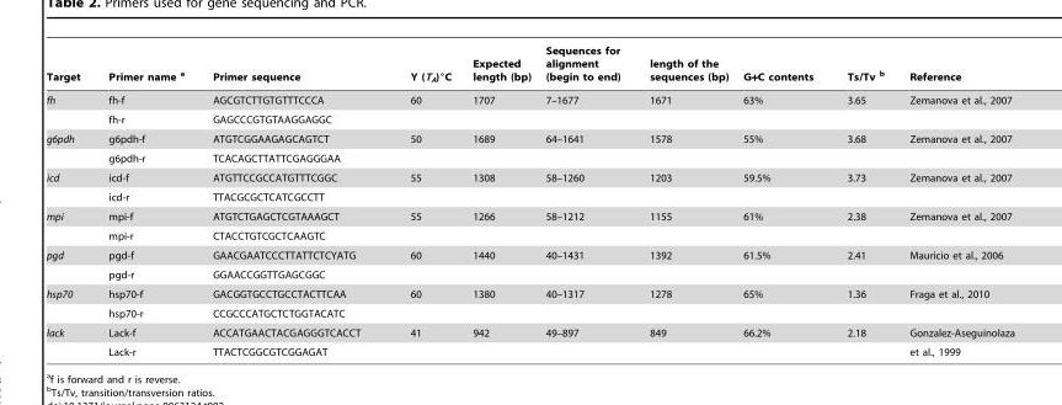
<table><thead><tr><td>Target</td><td>Primer name a</td><td>Primer sequence</td><td>Y (T<sub>A</sub>)°C</td><td>Expected length (bp)</td><td>Sequences for alignment (begin to end)</td><td>length of the sequences (bp)</td><td>G+C contents</td><td>Ts/Tv b</td><td>Reference</td></tr></thead><tbody><tr><td rowspan="2">fh</td><td>fh-f</td><td>AGCGTCTTGTGTTTCCCA</td><td>60</td><td>1707</td><td>7–1677</td><td>1671</td><td>63%</td><td>3.65</td><td>Zemanova et al., 2007</td></tr><tr><td>fh-r</td><td>GAGCCCGTGTAAGGAGGC</td><td></td><td></td><td></td><td></td><td></td><td></td><td></td></tr><tr><td rowspan="2">g6pdh</td><td>g6pdh-f</td><td>ATGTCGGAAGAGCAGTCT</td><td>50</td><td>1689</td><td>64–1641</td><td>1578</td><td>55%</td><td>3.68</td><td>Zemanova et al., 2007</td></tr><tr><td>g6pdh-r</td><td>TCACAGCTTATTCGAGGGAA</td><td></td><td></td><td></td><td></td><td></td><td></td><td></td></tr><tr><td rowspan="2">icd</td><td>icd-f</td><td>ATGTTCCGCCATGTTTCGGC</td><td>55</td><td>1308</td><td>58–1260</td><td>1203</td><td>59.5%</td><td>3.73</td><td>Zemanova et al., 2007</td></tr><tr><td>icd-r</td><td>TTACGCGCTCATCGCCTT</td><td></td><td></td><td></td><td></td><td></td><td></td><td></td></tr><tr><td rowspan="2">mpi</td><td>mpi-f</td><td>ATGTCTGAGCTCGTAAAGCT</td><td>55</td><td>1266</td><td>58–1212</td><td>1155</td><td>61%</td><td>2.38</td><td>Zemanova et al., 2007</td></tr><tr><td>mpi-r</td><td>CTACCTGTCGCTCAAGTC</td><td></td><td></td><td></td><td></td><td></td><td></td><td></td></tr><tr><td rowspan="2">pgd</td><td>pgd-f</td><td>GAACGAATCCCTTATTCTCYATG</td><td>60</td><td>1440</td><td>40–1431</td><td>1392</td><td>61.5%</td><td>2.41</td><td>Mauricio et al., 2006</td></tr><tr><td>pgd-r</td><td>GGAACCGGTTGAGCGGC</td><td></td><td></td><td></td><td></td><td></td><td></td><td></td></tr><tr><td rowspan="2">hsp70</td><td>hsp70-f</td><td>GACGGTGCCTGCCTACTTCAA</td><td>60</td><td>1380</td><td>40–1317</td><td>1278</td><td>65%</td><td>1.36</td><td>Fraga et al., 2010</td></tr><tr><td>hsp70-r</td><td>CCGCCCATGCTCTGGTACATC</td><td></td><td></td><td></td><td></td><td></td><td></td><td></td></tr><tr><td rowspan="2">lack</td><td>Lack-f</td><td>ACCATGAACTACGAGGGTCACCT</td><td>41</td><td>942</td><td>49–897</td><td>849</td><td>66.2%</td><td>2.18</td><td>Gonzalez-Aseguinolaza</td></tr><tr><td>Lack-r</td><td>TTACTCGGCGTCGGAGAT</td><td></td><td></td><td></td><td></td><td></td><td></td><td>et al., 1999</td></tr></tbody></table>